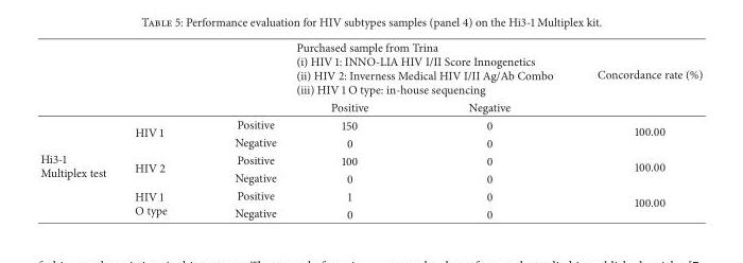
<table><thead><tr><td rowspan="2"></td><td rowspan="2"></td><td rowspan="2"></td><td colspan="2">Purchased sample from Trina (i) HIV 1: INNO-LIA HIV I/II Score Innogenetics (ii) HIV 2: Inverness Medical HIV I/II Ag/Ab Combo (iii) HIV 1 O type: in-house sequencing</td><td rowspan="2">Concordance rate (%)</td></tr><tr><td>Positive</td><td>Negative</td></tr></thead><tbody><tr><td rowspan="6">Hi3-1 Multiplex test</td><td rowspan="2">HIV 1</td><td>Positive</td><td>150</td><td>0</td><td rowspan="2">100.00</td></tr><tr><td>Negative</td><td>0</td><td>0</td></tr><tr><td rowspan="2">HIV 2</td><td>Positive</td><td>100</td><td>0</td><td rowspan="2">100.00</td></tr><tr><td>Negative</td><td>0</td><td>0</td></tr><tr><td rowspan="2">HIV 1 O type</td><td>Positive</td><td>1</td><td>0</td><td rowspan="2">100.00</td></tr><tr><td>Negative</td><td>0</td><td>0</td></tr></tbody></table>